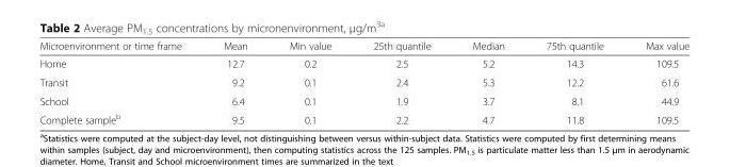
<table><thead><tr><td>Microenvironment or time frame</td><td>Mean</td><td>Min value</td><td>25th quantile</td><td>Median</td><td>75th quantile</td><td>Max value</td></tr></thead><tbody><tr><td>Home</td><td>12.7</td><td>0.2</td><td>2.5</td><td>5.2</td><td>14.3</td><td>109.5</td></tr><tr><td>Transit</td><td>9.2</td><td>0.1</td><td>2.4</td><td>5.3</td><td>12.2</td><td>61.6</td></tr><tr><td>School</td><td>6.4</td><td>0.1</td><td>1.9</td><td>3.7</td><td>8.1</td><td>44.9</td></tr><tr><td>Complete sample<sup>b</sup></td><td>9.5</td><td>0.1</td><td>2.2</td><td>4.7</td><td>11.8</td><td>109.5</td></tr></tbody></table>